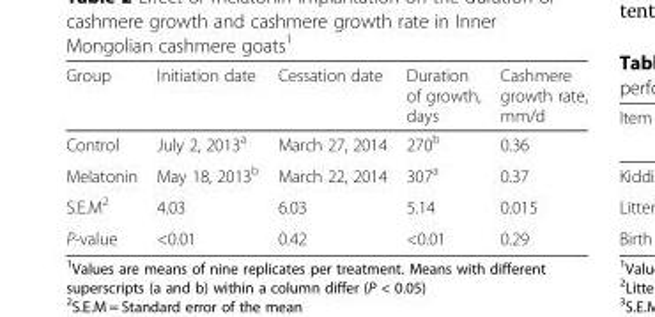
<table><thead><tr><td>Group</td><td>Initiation date</td><td>Cessation date</td><td>Duration of growth, days</td><td>Cashmere growth rate, mm/d</td></tr></thead><tbody><tr><td>Control</td><td>July 2, 2013<sup>a</sup></td><td>March 27, 2014</td><td>270<sup>b</sup></td><td>0.36</td></tr><tr><td>Melatonin</td><td>May 18, 2013<sup>b</sup></td><td>March 22, 2014</td><td>307<sup>a</sup></td><td>0.37</td></tr><tr><td>S.E.M<sup>2</sup></td><td>4.03</td><td>6.03</td><td>5.14</td><td>0.015</td></tr><tr><td>P-value</td><td>&lt;0.01</td><td>0.42</td><td>&lt;0.01</td><td>0.29</td></tr></tbody></table>